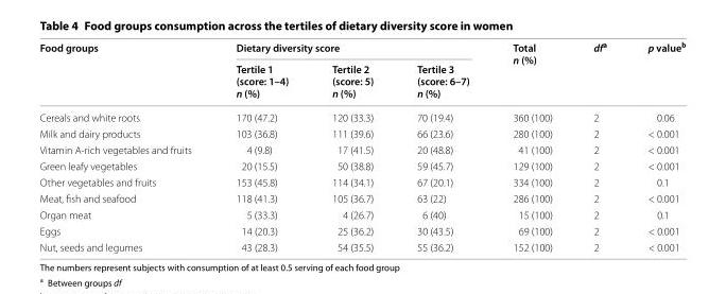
<table><thead><tr><td rowspan="2">Food groups</td><td colspan="3">Dietary diversity score</td><td rowspan="2">Total n (%)</td><td rowspan="2">df<sup>a</sup></td><td rowspan="2">p value<sup>b</sup></td></tr><tr><td>Tertile 1 (score: 1–4) n (%)</td><td>Tertile 2 (score: 5) n (%)</td><td>Tertile 3 (score: 6–7) n (%)</td></tr></thead><tbody><tr><td>Cereals and white roots</td><td>170 (47.2)</td><td>120 (33.3)</td><td>70 (19.4)</td><td>360 (100)</td><td>2</td><td>0.06</td></tr><tr><td>Milk and dairy products</td><td>103 (36.8)</td><td>111 (39.6)</td><td>66 (23.6)</td><td>280 (100)</td><td>2</td><td>&lt; 0.001</td></tr><tr><td>Vitamin A‑rich vegetables and fruits</td><td>4 (9.8)</td><td>17 (41.5)</td><td>20 (48.8)</td><td>41 (100)</td><td>2</td><td>&lt; 0.001</td></tr><tr><td>Green leafy vegetables</td><td>20 (15.5)</td><td>50 (38.8)</td><td>59 (45.7)</td><td>129 (100)</td><td>2</td><td>&lt; 0.001</td></tr><tr><td>Other vegetables and fruits</td><td>153 (45.8)</td><td>114 (34.1)</td><td>67 (20.1)</td><td>334 (100)</td><td>2</td><td>0.1</td></tr><tr><td>Meat, fish and seafood</td><td>118 (41.3)</td><td>105 (36.7)</td><td>63 (22)</td><td>286 (100)</td><td>2</td><td>&lt; 0.001</td></tr><tr><td>Organ meat</td><td>5 (33.3)</td><td>4 (26.7)</td><td>6 (40)</td><td>15 (100)</td><td>2</td><td>0.1</td></tr><tr><td>Eggs</td><td>14 (20.3)</td><td>25 (36.2)</td><td>30 (43.5)</td><td>69 (100)</td><td>2</td><td>&lt; 0.001</td></tr><tr><td>Nut, seeds and legumes</td><td>43 (28.3)</td><td>54 (35.5)</td><td>55 (36.2)</td><td>152 (100)</td><td>2</td><td>&lt; 0.001</td></tr></tbody></table>